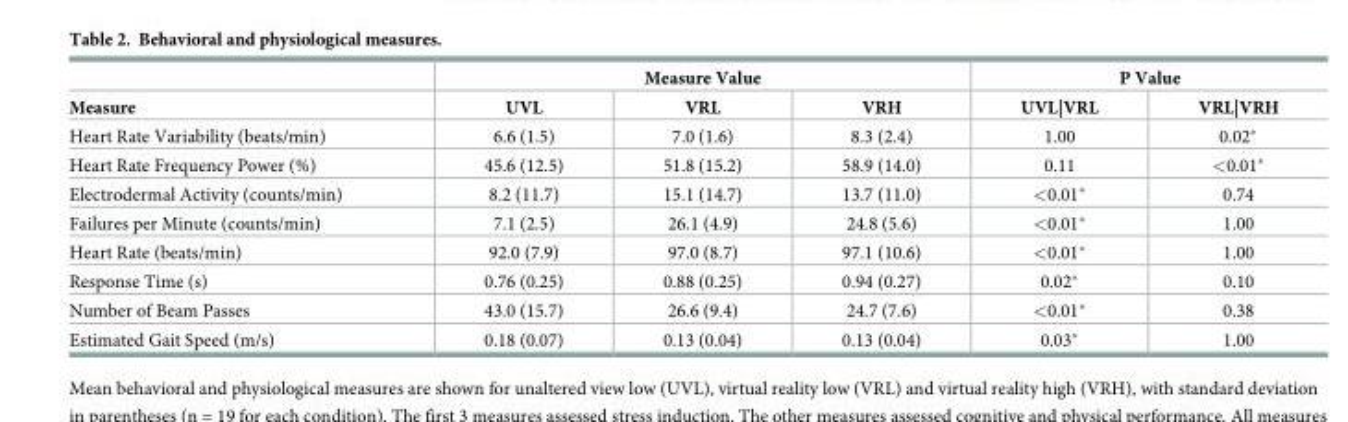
<table><thead><tr><td rowspan="2">Measure</td><td colspan="3">Measure Value</td><td colspan="2">P Value</td></tr><tr><td>UVL</td><td>VRL</td><td>VRH</td><td>UVL|VRL</td><td>VRL|VRH</td></tr></thead><tbody><tr><td>Heart Rate Variability (beats/min)</td><td>6.6 (1.5)</td><td>7.0 (1.6)</td><td>8.3 (2.4)</td><td>1.00</td><td>0.02*</td></tr><tr><td>Heart Rate Frequency Power (%)</td><td>45.6 (12.5)</td><td>51.8 (15.2)</td><td>58.9 (14.0)</td><td>0.11</td><td>&lt;0.01*</td></tr><tr><td>Electrodermal Activity (counts/min)</td><td>8.2 (11.7)</td><td>15.1 (14.7)</td><td>13.7 (11.0)</td><td>&lt;0.01*</td><td>0.74</td></tr><tr><td>Failures per Minute (counts/min)</td><td>7.1 (2.5)</td><td>26.1 (4.9)</td><td>24.8 (5.6)</td><td>&lt;0.01*</td><td>1.00</td></tr><tr><td>Heart Rate (beats/min)</td><td>92.0 (7.9)</td><td>97.0 (8.7)</td><td>97.1 (10.6)</td><td>&lt;0.01*</td><td>1.00</td></tr><tr><td>Response Time (s)</td><td>0.76 (0.25)</td><td>0.88 (0.25)</td><td>0.94 (0.27)</td><td>0.02*</td><td>0.10</td></tr><tr><td>Number of Beam Passes</td><td>43.0 (15.7)</td><td>26.6 (9.4)</td><td>24.7 (7.6)</td><td>&lt;0.01*</td><td>0.38</td></tr><tr><td>Estimated Gait Speed (m/s)</td><td>0.18 (0.07)</td><td>0.13 (0.04)</td><td>0.13 (0.04)</td><td>0.03*</td><td>1.00</td></tr></tbody></table>